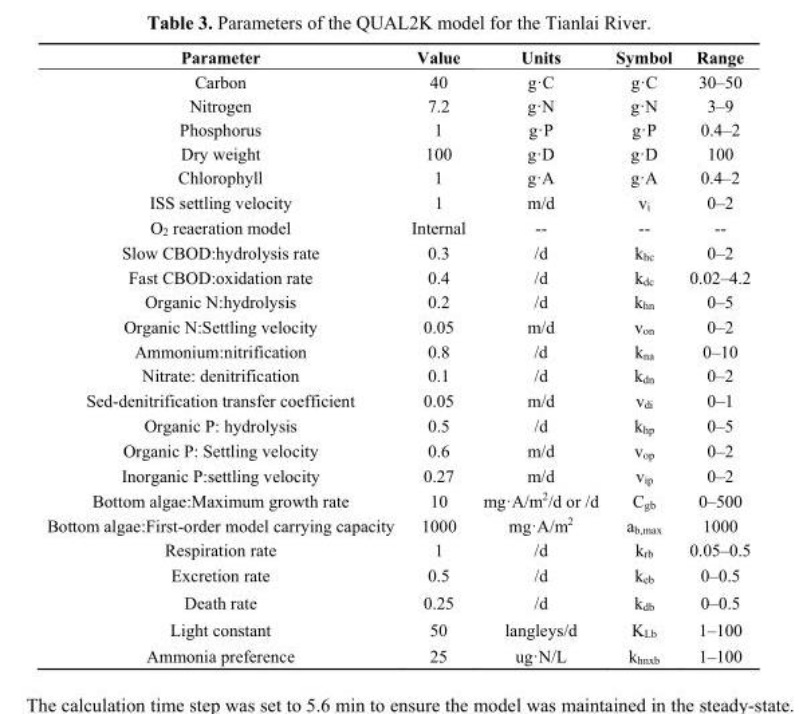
<table><thead><tr><td>Parameter</td><td>Value</td><td>Units</td><td>Symbol</td><td>Range</td></tr></thead><tbody><tr><td>Carbon</td><td>40</td><td>g·C</td><td>g·C</td><td>30–50</td></tr><tr><td>Nitrogen</td><td>7.2</td><td>g·N</td><td>g·N</td><td>3–9</td></tr><tr><td>Phosphorus</td><td>1</td><td>g·P</td><td>g·P</td><td>0.4–2</td></tr><tr><td>Dry weight</td><td>100</td><td>g·D</td><td>g·D</td><td>100</td></tr><tr><td>Chlorophyll</td><td>1</td><td>g·A</td><td>g·A</td><td>0.4–2</td></tr><tr><td>ISS settling velocity</td><td>1</td><td>m/d</td><td>v<sub>i</sub></td><td>0–2</td></tr><tr><td>O<sub>2</sub> reaeration model</td><td>Internal</td><td>--</td><td>--</td><td>--</td></tr><tr><td>Slow CBOD:hydrolysis rate</td><td>0.3</td><td>/d</td><td>k<sub>hc</sub></td><td>0–2</td></tr><tr><td>Fast CBOD:oxidation rate</td><td>0.4</td><td>/d</td><td>k<sub>dc</sub></td><td>0.02–4.2</td></tr><tr><td>Organic N:hydrolysis</td><td>0.2</td><td>/d</td><td>k<sub>hn</sub></td><td>0–5</td></tr><tr><td>Organic N:Settling velocity</td><td>0.05</td><td>m/d</td><td>v<sub>on</sub></td><td>0–2</td></tr><tr><td>Ammonium:nitrification</td><td>0.8</td><td>/d</td><td>k<sub>na</sub></td><td>0–10</td></tr><tr><td>Nitrate: denitrification</td><td>0.1</td><td>/d</td><td>k<sub>dn</sub></td><td>0–2</td></tr><tr><td>Sed-denitrification transfer coefficient</td><td>0.05</td><td>m/d</td><td>v<sub>di</sub></td><td>0–1</td></tr><tr><td>Organic P: hydrolysis</td><td>0.5</td><td>/d</td><td>k<sub>hp</sub></td><td>0–5</td></tr><tr><td>Organic P: Settling velocity</td><td>0.6</td><td>m/d</td><td>v<sub>op</sub></td><td>0–2</td></tr><tr><td>Inorganic P:settling velocity</td><td>0.27</td><td>m/d</td><td>v<sub>ip</sub></td><td>0–2</td></tr><tr><td>Bottom algae:Maximum growth rate</td><td>10</td><td>mg·A/m<sup>2</sup>/d or /d</td><td>C<sub>gb</sub></td><td>0–500</td></tr><tr><td>Bottom algae:First-order model carrying capacity</td><td>1000</td><td>mg·A/m<sup>2</sup></td><td>a<sub>b,max</sub></td><td>1000</td></tr><tr><td>Respiration rate</td><td>1</td><td>/d</td><td>k<sub>rb</sub></td><td>0.05–0.5</td></tr><tr><td>Excretion rate</td><td>0.5</td><td>/d</td><td>k<sub>eb</sub></td><td>0–0.5</td></tr><tr><td>Death rate</td><td>0.25</td><td>/d</td><td>k<sub>db</sub></td><td>0–0.5</td></tr><tr><td>Light constant</td><td>50</td><td>langleys/d</td><td>K<sub>Lb</sub></td><td>1–100</td></tr><tr><td>Ammonia preference</td><td>25</td><td>ug·N/L</td><td>k<sub>hnxb</sub></td><td>1–100</td></tr></tbody></table>